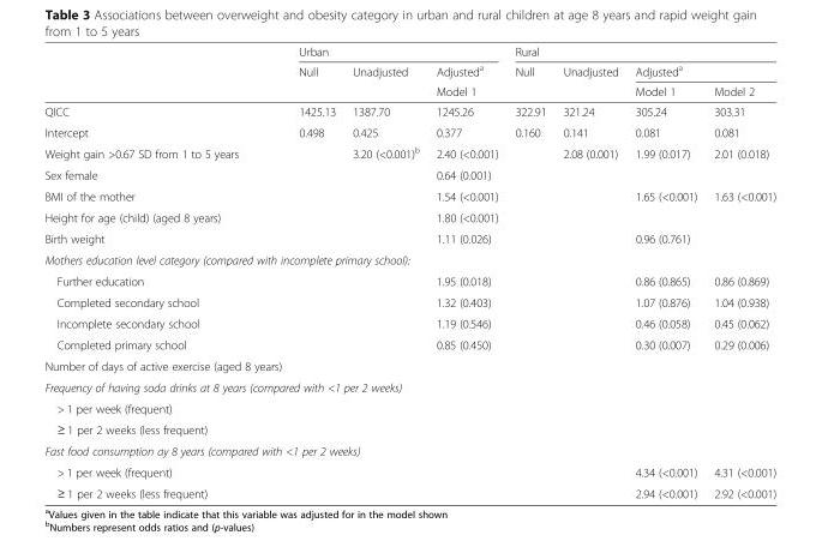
<table><thead><tr><td rowspan="3"></td><td colspan="3">Urban</td><td colspan="4">Rural</td></tr><tr><td rowspan="2">Null</td><td rowspan="2">Unadjusted</td><td rowspan="2">Adjusted<sup>a</sup> Model 1</td><td rowspan="2">Null</td><td rowspan="2">Unadjusted</td><td colspan="2">Adjusted<sup>a</sup></td></tr><tr><td>Model 1</td><td>Model 2</td></tr></thead><tbody><tr><td>QICC</td><td>1425.13</td><td>1387.70</td><td>1245.26</td><td>322.91</td><td>321.24</td><td>305.24</td><td>303.31</td></tr><tr><td>Intercept</td><td>0.498</td><td>0.425</td><td>0.377</td><td>0.160</td><td>0.141</td><td>0.081</td><td>0.081</td></tr><tr><td>Weight gain &gt;0.67 SD from 1 to 5 years</td><td></td><td>3.20 (&lt;0.001)<sup>b</sup></td><td>2.40 (&lt;0.001)</td><td></td><td>2.08 (0.001)</td><td>1.99 (0.017)</td><td>2.01 (0.018)</td></tr><tr><td>Sex female</td><td></td><td></td><td>0.64 (0.001)</td><td></td><td></td><td></td><td></td></tr><tr><td>BMI of the mother</td><td></td><td></td><td>1.54 (&lt;0.001)</td><td></td><td></td><td>1.65 (&lt;0.001)</td><td>1.63 (&lt;0.001)</td></tr><tr><td>Height for age (child) (aged 8 years)</td><td></td><td></td><td>1.80 (&lt;0.001)</td><td></td><td></td><td></td><td></td></tr><tr><td>Birth weight</td><td></td><td></td><td>1.11 (0.026)</td><td></td><td></td><td>0.96 (0.761)</td><td></td></tr><tr><td colspan="8">Mothers education level category (compared with incomplete primary school):</td></tr><tr><td>Further education</td><td></td><td></td><td>1.95 (0.018)</td><td></td><td></td><td>0.86 (0.865)</td><td>0.86 (0.869)</td></tr><tr><td>Completed secondary school</td><td></td><td></td><td>1.32 (0.403)</td><td></td><td></td><td>1.07 (0.876)</td><td>1.04 (0.938)</td></tr><tr><td>Incomplete secondary school</td><td></td><td></td><td>1.19 (0.546)</td><td></td><td></td><td>0.46 (0.058)</td><td>0.45 (0.062)</td></tr><tr><td>Completed primary school</td><td></td><td></td><td>0.85 (0.450)</td><td></td><td></td><td>0.30 (0.007)</td><td>0.29 (0.006)</td></tr><tr><td colspan="8">Number of days of active exercise (aged 8 years)</td></tr><tr><td colspan="8">Frequency of having soda drinks at 8 years (compared with &lt;1 per 2 weeks)</td></tr><tr><td colspan="8">&gt; 1 per week (frequent)</td></tr><tr><td colspan="8">≥ 1 per 2 weeks (less frequent)</td></tr><tr><td colspan="8">Fast food consumption ay 8 years (compared with &lt;1 per 2 weeks)</td></tr><tr><td>&gt; 1 per week (frequent)</td><td></td><td></td><td></td><td></td><td></td><td>4.34 (&lt;0.001)</td><td>4.31 (&lt;0.001)</td></tr><tr><td>≥ 1 per 2 weeks (less frequent)</td><td></td><td></td><td></td><td></td><td></td><td>2.94 (&lt;0.001)</td><td>2.92 (&lt;0.001)</td></tr></tbody></table>